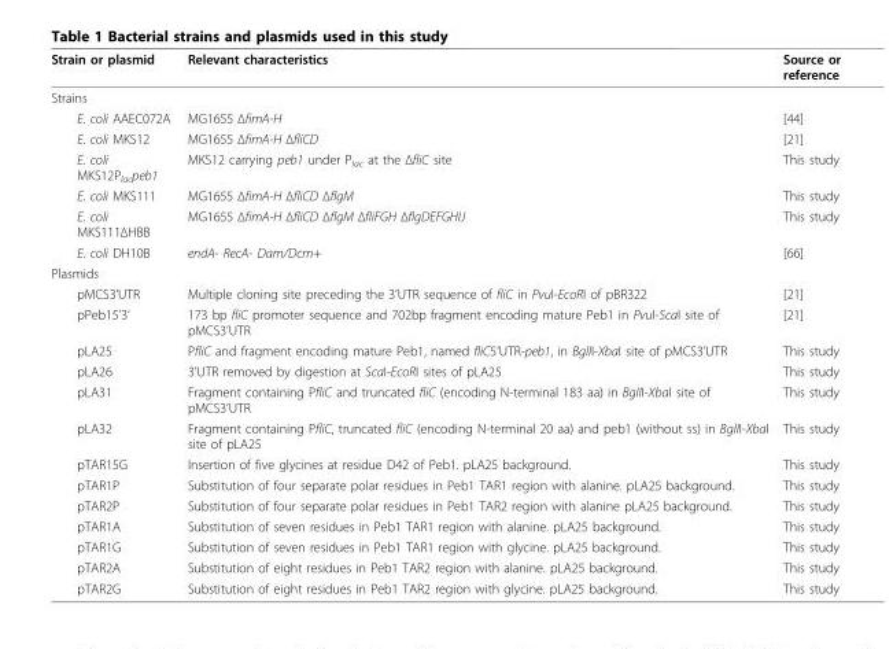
<table><thead><tr><td>Strain or plasmid</td><td>Relevant characteristics</td><td>Source or reference</td></tr></thead><tbody><tr><td colspan="3">Strains</td></tr><tr><td>E. coli AAEC072A</td><td>MG1655 ΔfimA-H</td><td>[44]</td></tr><tr><td>E. coli MKS12</td><td>MG1655 ΔfimA-H ΔfliCD</td><td>[21]</td></tr><tr><td>E. coli MKS12P<sub>lac</sub>peb1</td><td>MKS12 carrying peb1 under P<sub>lac</sub> at the ΔfliC site</td><td>This study</td></tr><tr><td>E. coli MKS111</td><td>MG1655 ΔfimA-H ΔfliCD ΔflgM</td><td>This study</td></tr><tr><td>E. coli MKS111ΔHBB</td><td>MG1655 ΔfimA-H ΔfliCD ΔflgM ΔfliFGH ΔflgDEFGHIJ</td><td>This study</td></tr><tr><td>E. coli DH10B</td><td>endA- RecA- Dam/Dcm+</td><td>[66]</td></tr><tr><td colspan="3">Plasmids</td></tr><tr><td>pMCS3’UTR</td><td>Multiple cloning site preceding the 3’UTR sequence of fliC in PvuI-EcoRI of pBR322</td><td>[21]</td></tr><tr><td>pPeb15’3’</td><td>173 bp fliC promoter sequence and 702bp fragment encoding mature Peb1 in PvuI-ScaI site of pMCS3’UTR</td><td>[21]</td></tr><tr><td>pLA25</td><td>PfliC and fragment encoding mature Peb1, named fliC5’UTR-peb1, in BglII-XbaI site of pMCS3’UTR</td><td>This study</td></tr><tr><td>pLA26</td><td>3’UTR removed by digestion at ScaI-EcoRI sites of pLA25</td><td>This study</td></tr><tr><td>pLA31</td><td>Fragment containing PfliC and truncated fliC (encoding N-terminal 183 aa) in BglII-XbaI site of pMCS3’UTR</td><td>This study</td></tr><tr><td>pLA32</td><td>Fragment containing PfliC, truncated fliC (encoding N-terminal 20 aa) and peb1 (without ss) in BglII-XbaI site of pLA25</td><td>This study</td></tr><tr><td>pTAR15G</td><td>Insertion of five glycines at residue D42 of Peb1. pLA25 background.</td><td>This study</td></tr><tr><td>pTAR1P</td><td>Substitution of four separate polar residues in Peb1 TAR1 region with alanine. pLA25 background.</td><td>This study</td></tr><tr><td>pTAR2P</td><td>Substitution of four separate polar residues in Peb1 TAR2 region with alanine pLA25 background.</td><td>This study</td></tr><tr><td>pTAR1A</td><td>Substitution of seven residues in Peb1 TAR1 region with alanine. pLA25 background.</td><td>This study</td></tr><tr><td>pTAR1G</td><td>Substitution of seven residues in Peb1 TAR1 region with glycine. pLA25 background.</td><td>This study</td></tr><tr><td>pTAR2A</td><td>Substitution of eight residues in Peb1 TAR2 region with alanine. pLA25 background.</td><td>This study</td></tr><tr><td>pTAR2G</td><td>Substitution of eight residues in Peb1 TAR2 region with glycine. pLA25 background.</td><td>This study</td></tr></tbody></table>